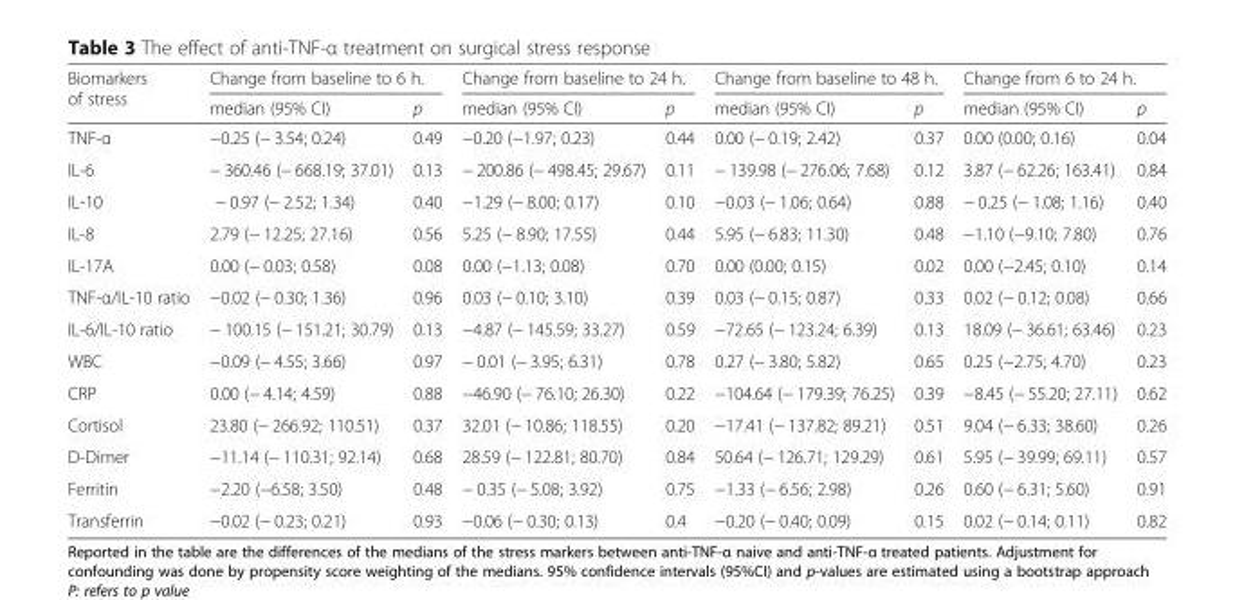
<table><thead><tr><td rowspan="2">Biomarkers of stress</td><td colspan="2">Change from baseline to 6 h.</td><td colspan="2">Change from baseline to 24 h.</td><td colspan="2">Change from baseline to 48 h.</td><td colspan="2">Change from 6 to 24 h.</td></tr><tr><td>median (95% CI)</td><td>p</td><td>median (95% CI)</td><td>p</td><td>median (95% CI)</td><td>p</td><td>median (95% CI)</td><td>p</td></tr></thead><tbody><tr><td>TNF-α</td><td>−0.25 (− 3.54; 0.24)</td><td>0.49</td><td>−0.20 (−1.97; 0.23)</td><td>0.44</td><td>0.00 (− 0.19; 2.42)</td><td>0.37</td><td>0.00 (0.00; 0.16)</td><td>0.04</td></tr><tr><td>IL-6</td><td>− 360.46 (− 668.19; 37.01)</td><td>0.13</td><td>− 200.86 (− 498.45; 29.67)</td><td>0.11</td><td>− 139.98 (− 276.06; 7.68)</td><td>0.12</td><td>3.87 (− 62.26; 163.41)</td><td>0.84</td></tr><tr><td>IL-10</td><td>− 0.97 (− 2.52; 1.34)</td><td>0.40</td><td>−1.29 (− 8.00; 0.17)</td><td>0.10</td><td>−0.03 (− 1.06; 0.64)</td><td>0.88</td><td>− 0.25 (− 1.08; 1.16)</td><td>0.40</td></tr><tr><td>IL-8</td><td>2.79 (− 12.25; 27.16)</td><td>0.56</td><td>5.25 (− 8.90; 17.55)</td><td>0.44</td><td>5.95 (− 6.83; 11.30)</td><td>0.48</td><td>−1.10 (−9.10; 7.80)</td><td>0.76</td></tr><tr><td>IL-17A</td><td>0.00 (− 0.03; 0.58)</td><td>0.08</td><td>0.00 (−1.13; 0.08)</td><td>0.70</td><td>0.00 (0.00; 0.15)</td><td>0.02</td><td>0.00 (−2.45; 0.10)</td><td>0.14</td></tr><tr><td>TNF-α/IL-10 ratio</td><td>−0.02 (− 0.30; 1.36)</td><td>0.96</td><td>0.03 (− 0.10; 3.10)</td><td>0.39</td><td>0.03 (− 0.15; 0.87)</td><td>0.33</td><td>0.02 (− 0.12; 0.08)</td><td>0.66</td></tr><tr><td>IL-6/IL-10 ratio</td><td>− 100.15 (− 151.21; 30.79)</td><td>0.13</td><td>−4.87 (− 145.59; 33.27)</td><td>0.59</td><td>−72.65 (− 123.24; 6.39)</td><td>0.13</td><td>18.09 (− 36.61; 63.46)</td><td>0.23</td></tr><tr><td>WBC</td><td>−0.09 (− 4.55; 3.66)</td><td>0.97</td><td>− 0.01 (− 3.95; 6.31)</td><td>0.78</td><td>0.27 (− 3.80; 5.82)</td><td>0.65</td><td>0.25 (−2.75; 4.70)</td><td>0.23</td></tr><tr><td>CRP</td><td>0.00 (− 4.14; 4.59)</td><td>0.88</td><td>−46.90 (− 76.10; 26.30)</td><td>0.22</td><td>−104.64 (− 179.39; 76.25)</td><td>0.39</td><td>−8.45 (− 55.20; 27.11)</td><td>0.62</td></tr><tr><td>Cortisol</td><td>23.80 (− 266.92; 110.51)</td><td>0.37</td><td>32.01 (− 10.86; 118.55)</td><td>0.20</td><td>−17.41 (− 137.82; 89.21)</td><td>0.51</td><td>9.04 (− 6.33; 38.60)</td><td>0.26</td></tr><tr><td>D-Dimer</td><td>−11.14 (− 110.31; 92.14)</td><td>0.68</td><td>28.59 (− 122.81; 80.70)</td><td>0.84</td><td>50.64 (− 126.71; 129.29)</td><td>0.61</td><td>5.95 (− 39.99; 69.11)</td><td>0.57</td></tr><tr><td>Ferritin</td><td>−2.20 (−6.58; 3.50)</td><td>0.48</td><td>− 0.35 (− 5.08; 3.92)</td><td>0.75</td><td>−1.33 (− 6.56; 2.98)</td><td>0.26</td><td>0.60 (− 6.31; 5.60)</td><td>0.91</td></tr><tr><td>Transferrin</td><td>−0.02 (− 0.23; 0.21)</td><td>0.93</td><td>−0.06 (− 0.30; 0.13)</td><td>0.4</td><td>−0.20 (− 0.40; 0.09)</td><td>0.15</td><td>0.02 (− 0.14; 0.11)</td><td>0.82</td></tr></tbody></table>